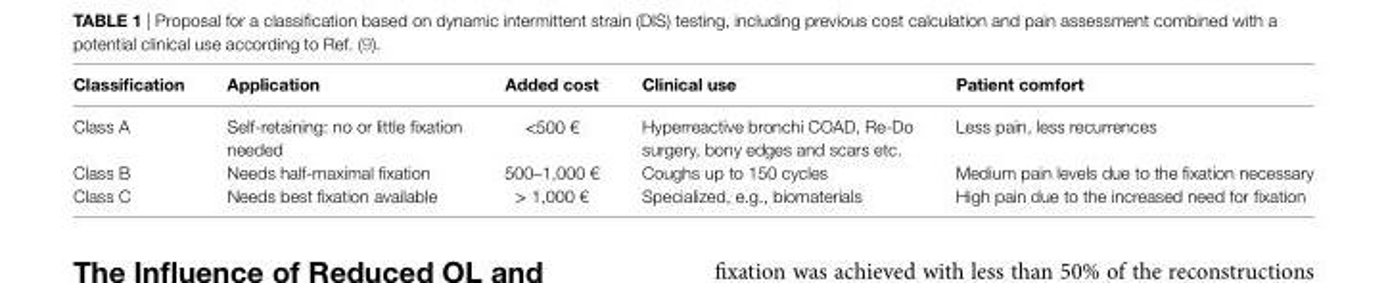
<table><thead><tr><td>classification</td><td>application</td><td>added cost</td><td>clinical use</td><td>Patient comfort</td></tr></thead><tbody><tr><td>Class A</td><td>Self-retaining: no or little fixation needed</td><td>&lt;500 €</td><td>Hyperreactive bronchi COAD, Re-Do surgery, bony edges and scars etc.</td><td>Less pain, less recurrences</td></tr><tr><td>Class B</td><td>Needs half-maximal fixation</td><td>500–1,000 €</td><td>Coughs up to 150 cycles</td><td>Medium pain levels due to the fixation necessary</td></tr><tr><td>Class C</td><td>Needs best fixation available</td><td>&gt; 1,000 €</td><td>Specialized, e.g., biomaterials</td><td>High pain due to the increased need for fixation</td></tr></tbody></table>